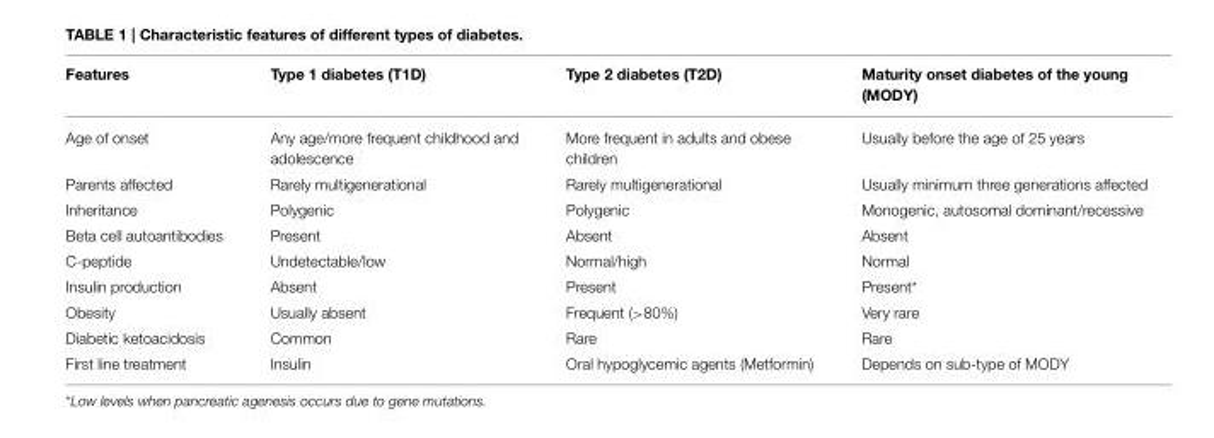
<table><thead><tr><td>Features</td><td>Type 1 diabetes (T1D)</td><td>Type 2 diabetes (T2D)</td><td>Maturity onset diabetes of the young (MODY)</td></tr></thead><tbody><tr><td>Age of onset</td><td>Any age/more frequent childhood and adolescence</td><td>More frequent in adults and obese children</td><td>Usually before the age of 25 years</td></tr><tr><td>Parents affected</td><td>Rarely multigenerational</td><td>Rarely multigenerational</td><td>Usually minimum three generations affected</td></tr><tr><td>Inheritance</td><td>Polygenic</td><td>Polygenic</td><td>Monogenic, autosomal dominant/recessive</td></tr><tr><td>Beta cell autoantibodies</td><td>Present</td><td>Absent</td><td>Absent</td></tr><tr><td>C-peptide</td><td>Undetectable/low</td><td>Normal/high</td><td>Normal</td></tr><tr><td>Insulin production</td><td>Absent</td><td>Present</td><td>Present*</td></tr><tr><td>Obesity</td><td>Usually absent</td><td>Frequent (&gt;80%)</td><td>Very rare</td></tr><tr><td>Diabetic ketoacidosis</td><td>Common</td><td>Rare</td><td>Rare</td></tr><tr><td>First line treatment</td><td>Insulin</td><td>Oral hypoglycemic agents (Metformin)</td><td>Depends on sub-type of MODY</td></tr></tbody></table>